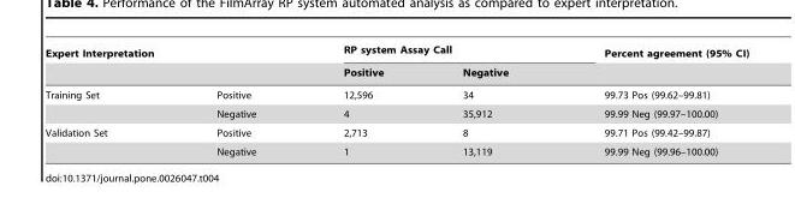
<table><thead><tr><td colspan="2">Expert Interpretation</td><td colspan="2">RP system Assay Call</td><td rowspan="2">Percent agreement (95% CI)</td></tr><tr><td></td><td></td><td>Positive</td><td>Negative</td></tr></thead><tbody><tr><td rowspan="2">Training Set</td><td>Positive</td><td>12,596</td><td>34</td><td>99.73 Pos (99.62–99.81)</td></tr><tr><td>Negative</td><td>4</td><td>35,912</td><td>99.99 Neg (99.97–100.00)</td></tr><tr><td rowspan="2">Validation Set</td><td>Positive</td><td>2,713</td><td>8</td><td>99.71 Pos (99.42–99.87)</td></tr><tr><td>Negative</td><td>1</td><td>13,119</td><td>99.99 Neg (99.96–100.00)</td></tr></tbody></table>